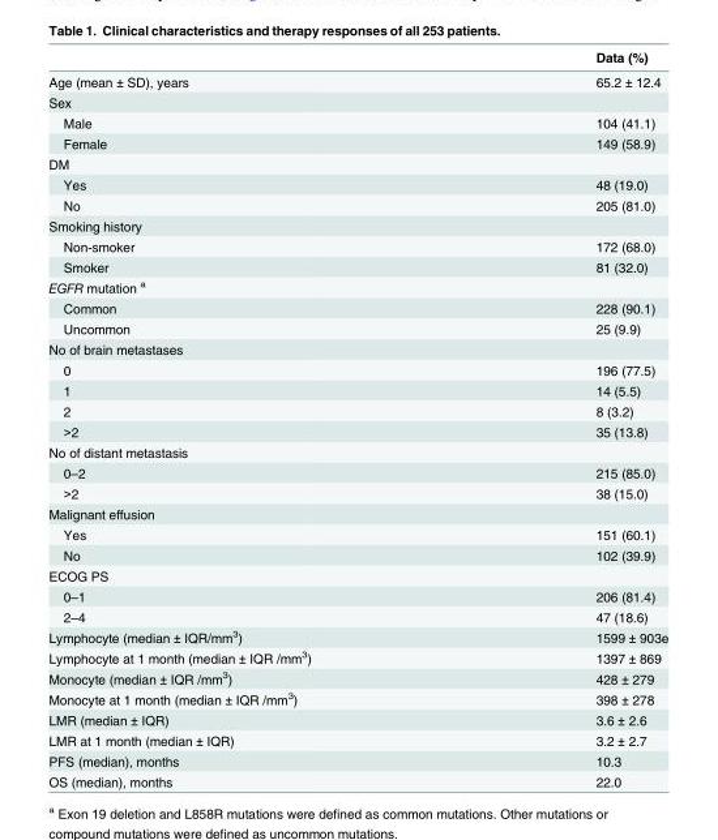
<table><thead><tr><td></td><td>Data (%)</td></tr></thead><tbody><tr><td>Age (mean ± SD), years</td><td>65.2 ± 12.4</td></tr><tr><td colspan="2">Sex</td></tr><tr><td>Male</td><td>104 (41.1)</td></tr><tr><td>Female</td><td>149 (58.9)</td></tr><tr><td colspan="2">DM</td></tr><tr><td>Yes</td><td>48 (19.0)</td></tr><tr><td>No</td><td>205 (81.0)</td></tr><tr><td colspan="2">Smoking history</td></tr><tr><td>Non-smoker</td><td>172 (68.0)</td></tr><tr><td>Smoker</td><td>81 (32.0)</td></tr><tr><td colspan="2">EGFR mutation <sup>a</sup></td></tr><tr><td>Common</td><td>228 (90.1)</td></tr><tr><td>Uncommon</td><td>25 (9.9)</td></tr><tr><td colspan="2">No of brain metastases</td></tr><tr><td>0</td><td>196 (77.5)</td></tr><tr><td>1</td><td>14 (5.5)</td></tr><tr><td>2</td><td>8 (3.2)</td></tr><tr><td>&gt;2</td><td>35 (13.8)</td></tr><tr><td colspan="2">No of distant metastasis</td></tr><tr><td>0–2</td><td>215 (85.0)</td></tr><tr><td>&gt;2</td><td>38 (15.0)</td></tr><tr><td colspan="2">Malignant effusion</td></tr><tr><td>Yes</td><td>151 (60.1)</td></tr><tr><td>No</td><td>102 (39.9)</td></tr><tr><td colspan="2">ECOG PS</td></tr><tr><td>0–1</td><td>206 (81.4)</td></tr><tr><td>2–4</td><td>47 (18.6)</td></tr><tr><td>Lymphocyte (median ± IQR/mm<sup>3</sup>)</td><td>1599 ± 903e</td></tr><tr><td>Lymphocyte at 1 month (median ± IQR /mm<sup>3</sup>)</td><td>1397 ± 869</td></tr><tr><td>Monocyte (median ± IQR /mm<sup>3</sup>)</td><td>428 ± 279</td></tr><tr><td>Monocyte at 1 month (median ± IQR /mm<sup>3</sup>)</td><td>398 ± 278</td></tr><tr><td>LMR (median ± IQR)</td><td>3.6 ± 2.6</td></tr><tr><td>LMR at 1 month (median ± IQR)</td><td>3.2 ± 2.7</td></tr><tr><td>PFS (median), months</td><td>10.3</td></tr><tr><td>OS (median), months</td><td>22.0</td></tr></tbody></table>